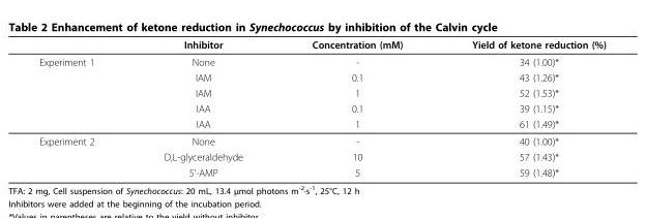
<table><thead><tr><td></td><td>Inhibitor</td><td>Concentration (mM)</td><td>Yield of ketone reduction (%)</td></tr></thead><tbody><tr><td rowspan="5">Experiment 1</td><td>None</td><td>-</td><td>34 (1.00)*</td></tr><tr><td>IAM</td><td>0.1</td><td>43 (1.26)*</td></tr><tr><td>IAM</td><td>1</td><td>52 (1.53)*</td></tr><tr><td>IAA</td><td>0.1</td><td>39 (1.15)*</td></tr><tr><td>IAA</td><td>1</td><td>61 (1.49)*</td></tr><tr><td rowspan="3">Experiment 2</td><td>None</td><td>-</td><td>40 (1.00)*</td></tr><tr><td>D,L-glyceraldehyde</td><td>10</td><td>57 (1.43)*</td></tr><tr><td>5’-AMP</td><td>5</td><td>59 (1.48)*</td></tr></tbody></table>